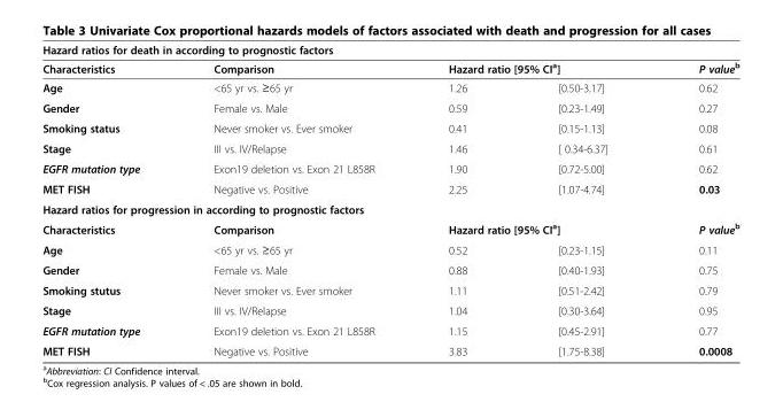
<table><thead><tr><td colspan="5">Hazard ratios for death in according to prognostic factors</td></tr><tr><td rowspan="2">Characteristics Age</td><td rowspan="2">Comparison &lt;65 yr vs. ≥65 yr</td><td colspan="2">Hazard ratio [95% CI<sup>a</sup>]</td><td rowspan="2">P valueb 0.62</td></tr><tr><td>1.26</td><td>[0.50-3.17]</td></tr></thead><tbody><tr><td>Gender</td><td>Female vs. Male</td><td>0.59</td><td>[0.23-1.49]</td><td>0.27</td></tr><tr><td>Smoking status</td><td>Never smoker vs. Ever smoker</td><td>0.41</td><td>[0.15-1.13]</td><td>0.08</td></tr><tr><td>Stage</td><td>III vs. IV/Relapse</td><td>1.46</td><td>[ 0.34-6.37]</td><td>0.61</td></tr><tr><td>EGFR mutation type</td><td>Exon19 deletion vs. Exon 21 L858R</td><td>1.90</td><td>[0.72-5.00]</td><td>0.62</td></tr><tr><td>MET FISH</td><td>Negative vs. Positive</td><td>2.25</td><td>[1.07-4.74]</td><td>0.03</td></tr><tr><td colspan="5">Hazard ratios for progression in according to prognostic factors</td></tr><tr><td>Characteristics</td><td>Comparison</td><td colspan="2">Hazard ratio [95% CI<sup>a</sup>]</td><td>P value<sup>b</sup></td></tr><tr><td>Age</td><td>&lt;65 yr vs. ≥65 yr</td><td>0.52</td><td>[0.23-1.15]</td><td>0.11</td></tr><tr><td>Gender</td><td>Female vs. Male</td><td>0.88</td><td>[0.40-1.93]</td><td>0.75</td></tr><tr><td>Smoking stutus</td><td>Never smoker vs. Ever smoker</td><td>1.11</td><td>[0.51-2.42]</td><td>0.79</td></tr><tr><td>Stage</td><td>III vs. IV/Relapse</td><td>1.04</td><td>[0.30-3.64]</td><td>0.95</td></tr><tr><td>EGFR mutation type</td><td>Exon19 deletion vs. Exon 21 L858R</td><td>1.15</td><td>[0.45-2.91]</td><td>0.77</td></tr><tr><td>MET FISH</td><td>Negative vs. Positive</td><td>3.83</td><td>[1.75-8.38]</td><td>0.0008</td></tr></tbody></table>